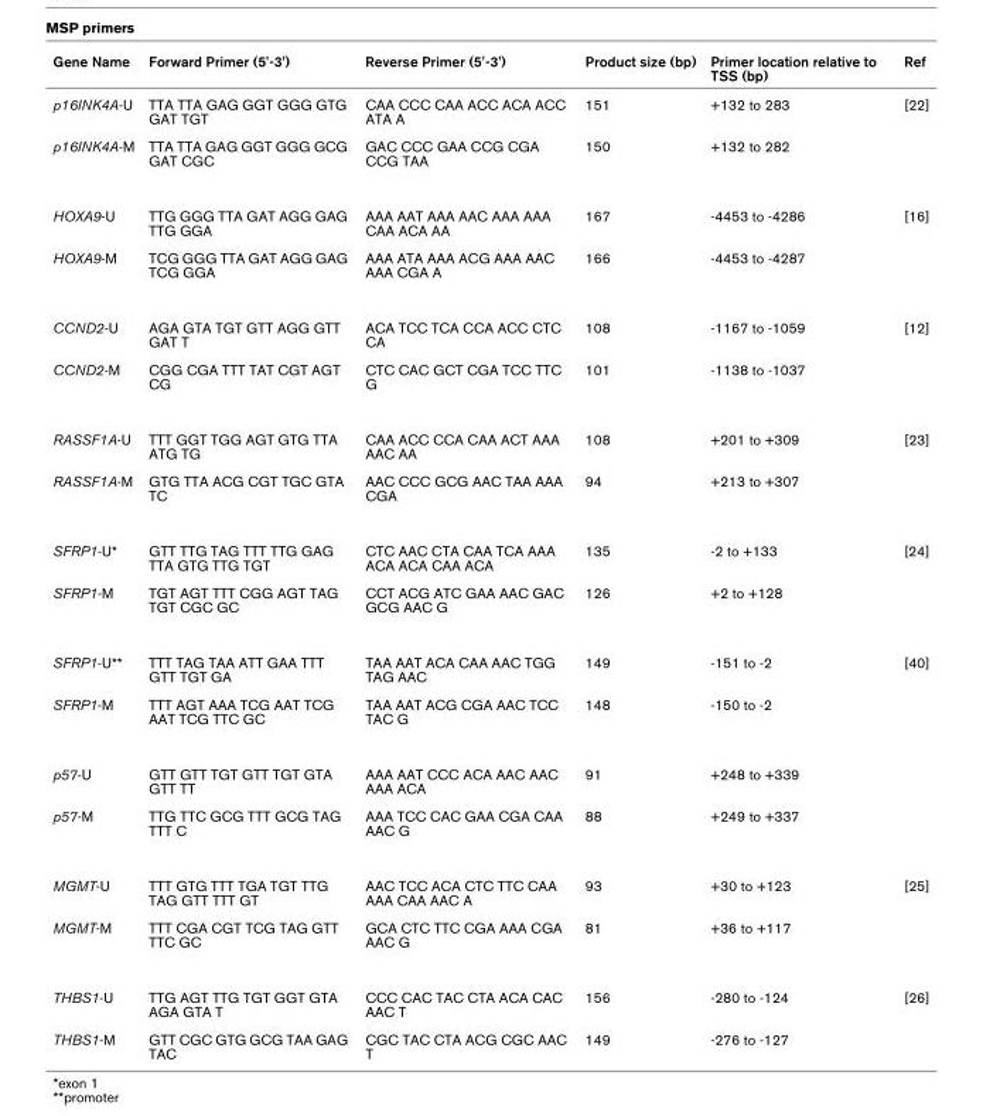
<table><thead><tr><td>Gene Name</td><td>Forward Primer (5&#x27;-3&#x27;)</td><td>Reverse Primer (5&#x27;-3&#x27;)</td><td>Product size (bp)</td><td>Primer location relative to TSS (bp)</td><td>Ref</td></tr></thead><tbody><tr><td>p16INK4A-U</td><td>TTA TTA GAG GGT GGG GTG GAT TGT</td><td>CAA CCC CAA ACC ACA ACC ATA A</td><td>151</td><td>+132 to 283</td><td>[22]</td></tr><tr><td>p16INK4A-M</td><td>TTA TTA GAG GGT GGG GCG GAT CGC</td><td>GAC CCC GAA CCG CGA CCG TAA</td><td>150</td><td>+132 to 282</td><td></td></tr><tr><td>HOXA9-U</td><td>TTG GGG TTA GAT AGG GAG TTG GGA</td><td>AAA AAT AAA AAC AAA AAA CAA ACA AA</td><td>167</td><td>-4453 to -4286</td><td>[16]</td></tr><tr><td>HOXA9-M</td><td>TCG GGG TTA GAT AGG GAG TCG GGA</td><td>AAA ATA AAA ACG AAA AAC AAA CGA A</td><td>166</td><td>-4453 to -4287</td><td></td></tr><tr><td>CCND2-U</td><td>AGA GTA TGT GTT AGG GTT GAT T</td><td>ACA TCC TCA CCA ACC CTC CA</td><td>108</td><td>-1167 to -1059</td><td>[12]</td></tr><tr><td>CCND2-M</td><td>CGG CGA TTT TAT CGT AGT CG</td><td>CTC CAC GCT CGA TCC TTC G</td><td>101</td><td>-1138 to -1037</td><td></td></tr><tr><td>RASSF1A-U</td><td>TTT GGT TGG AGT GTG TTA ATG TG</td><td>CAA ACC CCA CAA ACT AAA AAC AA</td><td>108</td><td>+201 to +309</td><td>[23]</td></tr><tr><td>RASSF1A-M</td><td>GTG TTA ACG CGT TGC GTA TC</td><td>AAC CCC GCG AAC TAA AAA CGA</td><td>94</td><td>+213 to +307</td><td></td></tr><tr><td>SFRP1-U*</td><td>GTT TTG TAG TTT TTG GAG TTA GTG TTG TGT</td><td>CTC AAC CTA CAA TCA AAA ACA ACA CAA ACA</td><td>135</td><td>-2 to +133</td><td>[24]</td></tr><tr><td>SFRP1-M</td><td>TGT AGT TTT CGG AGT TAG TGT CGC GC</td><td>CCT ACG ATC GAA AAC GAC GCG AAC G</td><td>126</td><td>+2 to +128</td><td></td></tr><tr><td>SFRP1-U**</td><td>TTT TAG TAA ATT GAA TTT GTT TGT GA</td><td>TAA AAT ACA CAA AAC TGG TAG AAC</td><td>149</td><td>-151 to -2</td><td>[40]</td></tr><tr><td>SFRP1-M</td><td>TTT AGT AAA TCG AAT TCG AAT TCG TTC GC</td><td>TAA AAT ACG CGA AAC TCC TAC G</td><td>148</td><td>-150 to -2</td><td></td></tr><tr><td>p57-U</td><td>GTT GTT TGT GTT TGT GTA GTT TT</td><td>AAA AAT CCC ACA AAC AAC AAA ACA</td><td>91</td><td>+248 to +339</td><td></td></tr><tr><td>p57-M</td><td>TTG TTC GCG TTT GCG TAG TTT C</td><td>AAA TCC CAC GAA CGA CAA AAC G</td><td>88</td><td>+249 to +337</td><td></td></tr><tr><td>MGMT-U</td><td>TTT GTG TTT TGA TGT TTG TAG GTT TTT GT</td><td>AAC TCC ACA CTC TTC CAA AAA CAA AAC A</td><td>93</td><td>+30 to +123</td><td>[25]</td></tr><tr><td>MGMT-M</td><td>TTT CGA CGT TCG TAG GTT TTC GC</td><td>GCA CTC TTC CGA AAA CGA AAC G</td><td>81</td><td>+36 to +117</td><td></td></tr><tr><td>THBS1-U</td><td>TTG AGT TTG TGT GGT GTA AGA GTA T</td><td>CCC CAC TAC CTA ACA CAC AAC T</td><td>156</td><td>-280 to -124</td><td>[26]</td></tr><tr><td>THBS1-M</td><td>GTT CGC GTG GCG TAA GAG TAC</td><td>CGC TAC CTA ACG CGC AAC T</td><td>149</td><td>-276 to -127</td><td></td></tr></tbody></table>